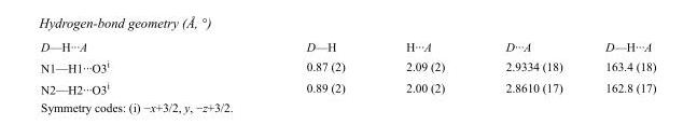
<table><tbody><tr><td>D—H···A</td><td>D—H</td><td>H···A</td><td>D···A</td><td>D—H···A</td></tr><tr><td>N1—H1···O3<sup>i</sup></td><td>0.87 (2)</td><td>2.09 (2)</td><td>2.9334 (18)</td><td>163.4 (18)</td></tr><tr><td>N2—H2···O3<sup>i</sup></td><td>0.89 (2)</td><td>2.00 (2)</td><td>2.8610 (17)</td><td>162.8 (17)</td></tr></tbody></table>